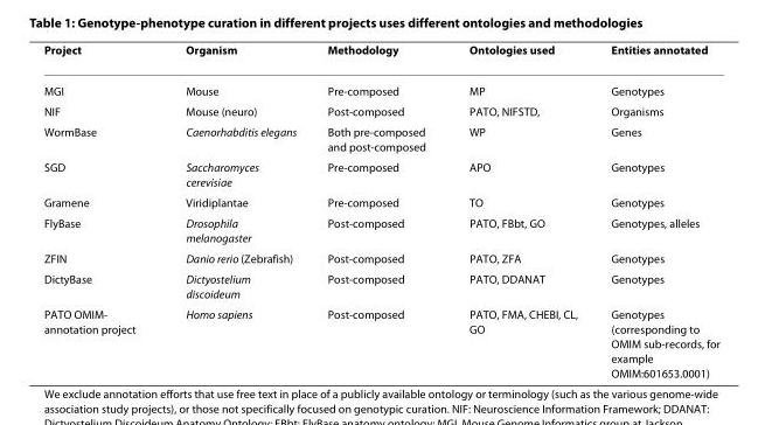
<table><thead><tr><td>Project</td><td>Organism</td><td>Methodology</td><td>Ontologies used</td><td>Entities annotated</td></tr></thead><tbody><tr><td>MGI</td><td>Mouse</td><td>Pre-composed</td><td>MP</td><td>Genotypes</td></tr><tr><td>NIF</td><td>Mouse (neuro)</td><td>Post-composed</td><td>PATO, NIFSTD,</td><td>Organisms</td></tr><tr><td>WormBase</td><td>Caenorhabditis elegans</td><td>Both pre-composed and post-composed</td><td>WP</td><td>Genes</td></tr><tr><td>SGD</td><td>Saccharomyces cerevisiae</td><td>Pre-composed</td><td>APO</td><td>Genotypes</td></tr><tr><td>Gramene</td><td>Viridiplantae</td><td>Pre-composed</td><td>TO</td><td>Genotypes</td></tr><tr><td>FlyBase</td><td>Drosophila melanogaster</td><td>Post-composed</td><td>PATO, FBbt, GO</td><td>Genotypes, alleles</td></tr><tr><td>ZFIN</td><td>Danio rerio (Zebrafish)</td><td>Post-composed</td><td>PATO, ZFA</td><td>Genotypes</td></tr><tr><td>DictyBase</td><td>Dictyostelium discoideum</td><td>Post-composed</td><td>PATO, DDANAT</td><td>Genotypes</td></tr><tr><td>PATO OMIM- annotation project</td><td>Homo sapiens</td><td>Post-composed</td><td>PATO, FMA, CHEBI, CL, GO</td><td>Genotypes (corresponding to OMIM sub-records, for example OMIM:601653.0001)</td></tr></tbody></table>